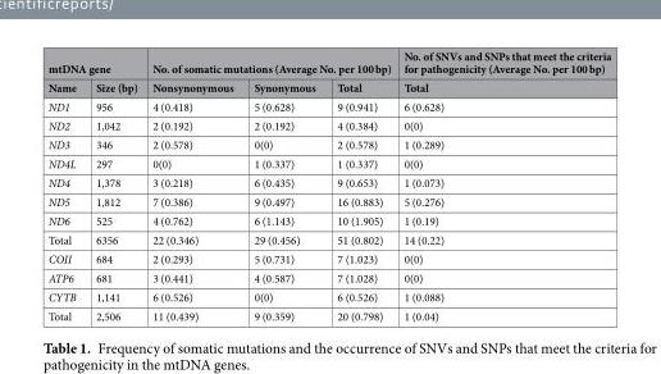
<table><thead><tr><td colspan="2">mtDNA gene</td><td colspan="3">No. of somatic mutations (Average No. per 100 bp)</td><td rowspan="2">No. of SNVs and SNPs that meet the criteria for pathogenicity (Average No. per 100 bp) Total</td></tr><tr><td>Name</td><td>Size (bp)</td><td>Nonsynonymous</td><td>Synonymous</td><td>Total</td></tr></thead><tbody><tr><td>ND1</td><td>956</td><td>4 (0.418)</td><td>5 (0.628)</td><td>9 (0.941)</td><td>6 (0.628)</td></tr><tr><td>ND2</td><td>1,042</td><td>2 (0.192)</td><td>2 (0.192)</td><td>4 (0.384)</td><td>0(0)</td></tr><tr><td>ND3</td><td>346</td><td>2 (0.578)</td><td>0(0)</td><td>2 (0.578)</td><td>1 (0.289)</td></tr><tr><td>ND4L</td><td>297</td><td>0(0)</td><td>1 (0.337)</td><td>1 (0.337)</td><td>0(0)</td></tr><tr><td>ND4</td><td>1,378</td><td>3 (0.218)</td><td>6 (0.435)</td><td>9 (0.653)</td><td>1 (0.073)</td></tr><tr><td>ND5</td><td>1,812</td><td>7 (0.386)</td><td>9 (0.497)</td><td>16 (0.883)</td><td>5 (0.276)</td></tr><tr><td>ND6</td><td>525</td><td>4 (0.762)</td><td>6 (1.143)</td><td>10 (1.905)</td><td>1 (0.19)</td></tr><tr><td>Total</td><td>6356</td><td>22 (0.346)</td><td>29 (0.456)</td><td>51 (0.802)</td><td>14 (0.22)</td></tr><tr><td>COII</td><td>684</td><td>2 (0.293)</td><td>5 (0.731)</td><td>7 (1.023)</td><td>0(0)</td></tr><tr><td>ATP6</td><td>681</td><td>3 (0.441)</td><td>4 (0.587)</td><td>7 (1.028)</td><td>0(0)</td></tr><tr><td>CYTB</td><td>1,141</td><td>6 (0.526)</td><td>0(0)</td><td>6 (0.526)</td><td>1 (0.088)</td></tr><tr><td>Total</td><td>2,506</td><td>11 (0.439)</td><td>9 (0.359)</td><td>20 (0.798)</td><td>1 (0.04)</td></tr></tbody></table>